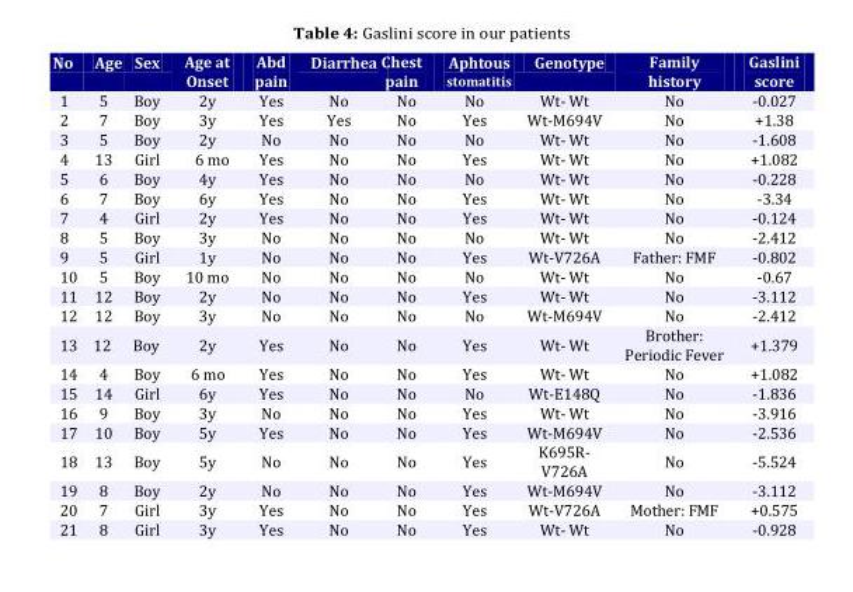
<table><tbody><tr><td>No</td><td>Age</td><td>Sex</td><td>Age at Onset</td><td>Abd pain</td><td>Diarrhea</td><td>Chest pain</td><td>Aphtous stomatitis</td><td>Genotype</td><td>Family history</td><td>Gaslini score</td></tr><tr><td>1</td><td>5</td><td>Boy</td><td>2y</td><td>Yes</td><td>No</td><td>No</td><td>No</td><td>Wt- Wt</td><td>No</td><td>-0.027</td></tr><tr><td>2</td><td>7</td><td>Boy</td><td>3y</td><td>Yes</td><td>Yes</td><td>No</td><td>Yes</td><td>Wt-M694V</td><td>No</td><td>+1.38</td></tr><tr><td>3</td><td>5</td><td>Boy</td><td>2y</td><td>No</td><td>No</td><td>No</td><td>No</td><td>Wt- Wt</td><td>No</td><td>-1.608</td></tr><tr><td>4</td><td>13</td><td>Girl</td><td>6 mo</td><td>Yes</td><td>No</td><td>No</td><td>Yes</td><td>Wt- Wt</td><td>No</td><td>+1.082</td></tr><tr><td>5</td><td>6</td><td>Boy</td><td>4y</td><td>Yes</td><td>No</td><td>No</td><td>No</td><td>Wt- Wt</td><td>No</td><td>-0.228</td></tr><tr><td>6</td><td>7</td><td>Boy</td><td>6y</td><td>Yes</td><td>No</td><td>No</td><td>Yes</td><td>Wt- Wt</td><td>No</td><td>-3.34</td></tr><tr><td>7</td><td>4</td><td>Girl</td><td>2y</td><td>Yes</td><td>No</td><td>No</td><td>Yes</td><td>Wt- Wt</td><td>No</td><td>-0.124</td></tr><tr><td>8</td><td>5</td><td>Boy</td><td>3y</td><td>No</td><td>No</td><td>No</td><td>No</td><td>Wt- Wt</td><td>No</td><td>-2.412</td></tr><tr><td>9</td><td>5</td><td>Girl</td><td>1y</td><td>No</td><td>No</td><td>No</td><td>Yes</td><td>Wt-V726A</td><td>Father: FMF</td><td>-0.802</td></tr><tr><td>10</td><td>5</td><td>Boy</td><td>10 mo</td><td>No</td><td>No</td><td>No</td><td>No</td><td>Wt- Wt</td><td>No</td><td>-0.67</td></tr><tr><td>11</td><td>12</td><td>Boy</td><td>2y</td><td>No</td><td>No</td><td>No</td><td>Yes</td><td>Wt- Wt</td><td>No</td><td>-3.112</td></tr><tr><td>12</td><td>12</td><td>Boy</td><td>3y</td><td>No</td><td>No</td><td>No</td><td>No</td><td>Wt-M694V</td><td>No</td><td>-2.412</td></tr><tr><td>13</td><td>12</td><td>Boy</td><td>2y</td><td>Yes</td><td>No</td><td>No</td><td>Yes</td><td>Wt- Wt</td><td>Brother: Periodic Fever</td><td>+1.379</td></tr><tr><td>14</td><td>4</td><td>Boy</td><td>6 mo</td><td>Yes</td><td>No</td><td>No</td><td>Yes</td><td>Wt- Wt</td><td>No</td><td>+1.082</td></tr><tr><td>15</td><td>14</td><td>Girl</td><td>6y</td><td>Yes</td><td>No</td><td>No</td><td>No</td><td>Wt-E148Q</td><td>No</td><td>-1.836</td></tr><tr><td>16</td><td>9</td><td>Boy</td><td>3y</td><td>No</td><td>No</td><td>No</td><td>Yes</td><td>Wt- Wt</td><td>No</td><td>-3.916</td></tr><tr><td>17</td><td>10</td><td>Boy</td><td>5y</td><td>Yes</td><td>No</td><td>No</td><td>Yes</td><td>Wt-M694V</td><td>No</td><td>-2.536</td></tr><tr><td>18</td><td>13</td><td>Boy</td><td>5y</td><td>No</td><td>No</td><td>No</td><td>Yes</td><td>K695R- V726A</td><td>No</td><td>-5.524</td></tr><tr><td>19</td><td>8</td><td>Boy</td><td>2y</td><td>No</td><td>No</td><td>No</td><td>Yes</td><td>Wt-M694V</td><td>No</td><td>-3.112</td></tr><tr><td>20</td><td>7</td><td>Girl</td><td>3y</td><td>Yes</td><td>No</td><td>No</td><td>Yes</td><td>Wt-V726A</td><td>Mother: FMF</td><td>+0.575</td></tr><tr><td>21</td><td>8</td><td>Girl</td><td>3y</td><td>Yes</td><td>No</td><td>No</td><td>Yes</td><td>Wt- Wt</td><td>No</td><td>-0.928</td></tr></tbody></table>